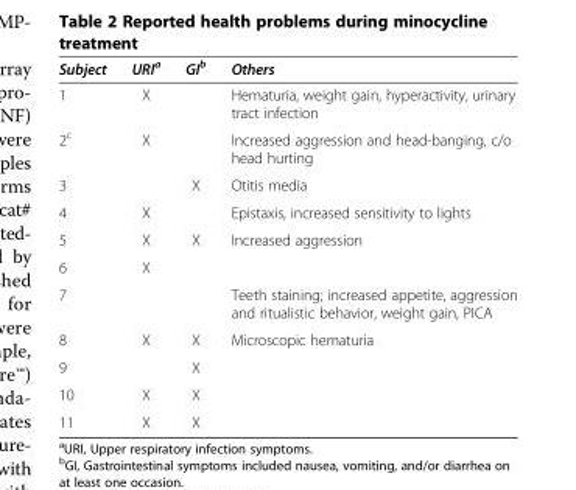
<table><thead><tr><td>Subject</td><td>URI<sup>a</sup></td><td>GI<sup>b</sup></td><td>Others</td></tr></thead><tbody><tr><td>1</td><td>X</td><td></td><td>Hematuria, weight gain, hyperactivity, urinary tract infection</td></tr><tr><td>2<sup>c</sup></td><td>X</td><td></td><td>Increased aggression and head-banging, c/o head hurting</td></tr><tr><td>3</td><td></td><td>X</td><td>Otitis media</td></tr><tr><td>4</td><td>X</td><td></td><td>Epistaxis, increased sensitivity to lights</td></tr><tr><td>5</td><td>X</td><td>X</td><td>Increased aggression</td></tr><tr><td>6</td><td>X</td><td></td><td></td></tr><tr><td>7</td><td></td><td></td><td>Teeth staining; increased appetite, aggression and ritualistic behavior, weight gain, PICA</td></tr><tr><td>8</td><td>X</td><td>X</td><td>Microscopic hematuria</td></tr><tr><td>9</td><td></td><td>X</td><td></td></tr><tr><td>10</td><td>X</td><td>X</td><td></td></tr><tr><td>11</td><td>X</td><td>X</td><td></td></tr></tbody></table>